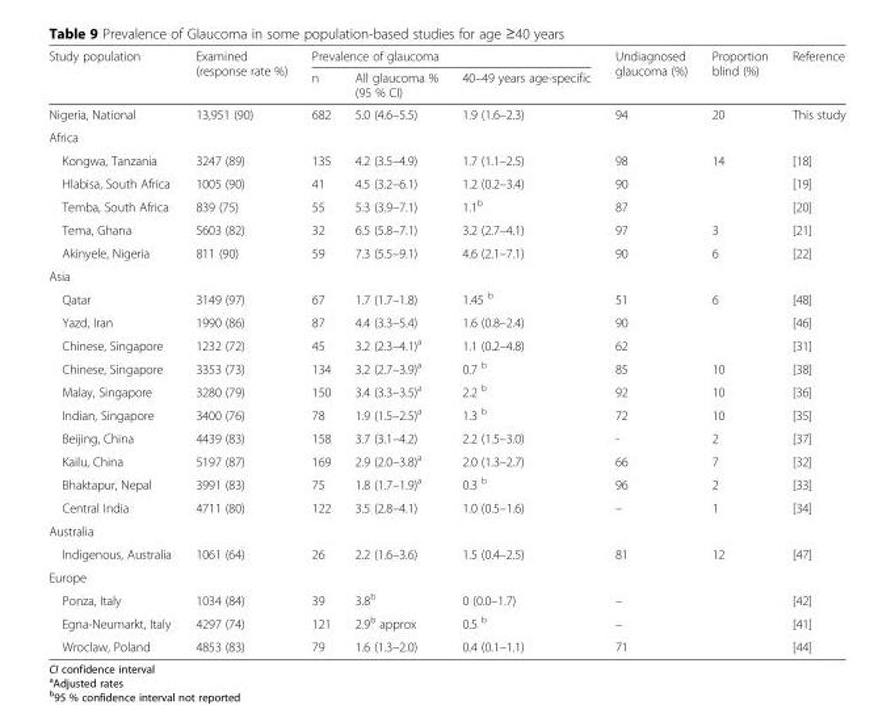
<table><thead><tr><td rowspan="2">Study population</td><td rowspan="2">Examined (response rate %)</td><td colspan="3">Prevalence of glaucoma</td><td rowspan="2">Undiagnosed glaucoma (%)</td><td rowspan="2">Proportion blind (%)</td><td rowspan="2">Reference</td></tr><tr><td>n</td><td>All glaucoma % (95 % CI)</td><td>40–49 years age-specific</td></tr></thead><tbody><tr><td>Nigeria, National</td><td>13,951 (90)</td><td>682</td><td>5.0 (4.6–5.5)</td><td>1.9 (1.6–2.3)</td><td>94</td><td>20</td><td>This study</td></tr><tr><td colspan="8">Africa</td></tr><tr><td>Kongwa, Tanzania</td><td>3247 (89)</td><td>135</td><td>4.2 (3.5–4.9)</td><td>1.7 (1.1–2.5)</td><td>98</td><td>14</td><td>[18]</td></tr><tr><td>Hlabisa, South Africa</td><td>1005 (90)</td><td>41</td><td>4.5 (3.2–6.1)</td><td>1.2 (0.2–3.4)</td><td>90</td><td></td><td>[19]</td></tr><tr><td>Temba, South Africa</td><td>839 (75)</td><td>55</td><td>5.3 (3.9–7.1)</td><td>1.1<sup>b</sup></td><td>87</td><td></td><td>[20]</td></tr><tr><td>Tema, Ghana</td><td>5603 (82)</td><td>32</td><td>6.5 (5.8–7.1)</td><td>3.2 (2.7–4.1)</td><td>97</td><td>3</td><td>[21]</td></tr><tr><td>Akinyele, Nigeria</td><td>811 (90)</td><td>59</td><td>7.3 (5.5–9.1)</td><td>4.6 (2.1–7.1)</td><td>90</td><td>6</td><td>[22]</td></tr><tr><td colspan="8">Asia</td></tr><tr><td>Qatar</td><td>3149 (97)</td><td>67</td><td>1.7 (1.7–1.8)</td><td>1.45 <sup>b</sup></td><td>51</td><td>6</td><td>[48]</td></tr><tr><td>Yazd, Iran</td><td>1990 (86)</td><td>87</td><td>4.4 (3.3–5.4)</td><td>1.6 (0.8–2.4)</td><td>90</td><td></td><td>[46]</td></tr><tr><td>Chinese, Singapore</td><td>1232 (72)</td><td>45</td><td>3.2 (2.3–4.1)<sup>a</sup></td><td>1.1 (0.2–4.8)</td><td>62</td><td></td><td>[31]</td></tr><tr><td>Chinese, Singapore</td><td>3353 (73)</td><td>134</td><td>3.2 (2.7–3.9)<sup>a</sup></td><td>0.7 <sup>b</sup></td><td>85</td><td>10</td><td>[38]</td></tr><tr><td>Malay, Singapore</td><td>3280 (79)</td><td>150</td><td>3.4 (3.3–3.5)<sup>a</sup></td><td>2.2 <sup>b</sup></td><td>92</td><td>10</td><td>[36]</td></tr><tr><td>Indian, Singapore</td><td>3400 (76)</td><td>78</td><td>1.9 (1.5–2.5)<sup>a</sup></td><td>1.3 <sup>b</sup></td><td>72</td><td>10</td><td>[35]</td></tr><tr><td>Beijing, China</td><td>4439 (83)</td><td>158</td><td>3.7 (3.1–4.2)</td><td>2.2 (1.5–3.0)</td><td>-</td><td>2</td><td>[37]</td></tr><tr><td>Kailu, China</td><td>5197 (87)</td><td>169</td><td>2.9 (2.0–3.8)<sup>a</sup></td><td>2.0 (1.3–2.7)</td><td>66</td><td>7</td><td>[32]</td></tr><tr><td>Bhaktapur, Nepal</td><td>3991 (83)</td><td>75</td><td>1.8 (1.7–1.9)<sup>a</sup></td><td>0.3 <sup>b</sup></td><td>96</td><td>2</td><td>[33]</td></tr><tr><td>Central India</td><td>4711 (80)</td><td>122</td><td>3.5 (2.8–4.1)</td><td>1.0 (0.5–1.6)</td><td>–</td><td>1</td><td>[34]</td></tr><tr><td colspan="8">Australia</td></tr><tr><td>Indigenous, Australia</td><td>1061 (64)</td><td>26</td><td>2.2 (1.6–3.6)</td><td>1.5 (0.4–2.5)</td><td>81</td><td>12</td><td>[47]</td></tr><tr><td colspan="8">Europe</td></tr><tr><td>Ponza, Italy</td><td>1034 (84)</td><td>39</td><td>3.8<sup>b</sup></td><td>0 (0.0–1.7)</td><td>–</td><td></td><td>[42]</td></tr><tr><td>Egna-Neumarkt, Italy</td><td>4297 (74)</td><td>121</td><td>2.9<sup>b</sup> approx</td><td>0.5 <sup>b</sup></td><td>–</td><td></td><td>[41]</td></tr><tr><td>Wroclaw, Poland</td><td>4853 (83)</td><td>79</td><td>1.6 (1.3–2.0)</td><td>0.4 (0.1–1.1)</td><td>71</td><td></td><td>[44]</td></tr></tbody></table>